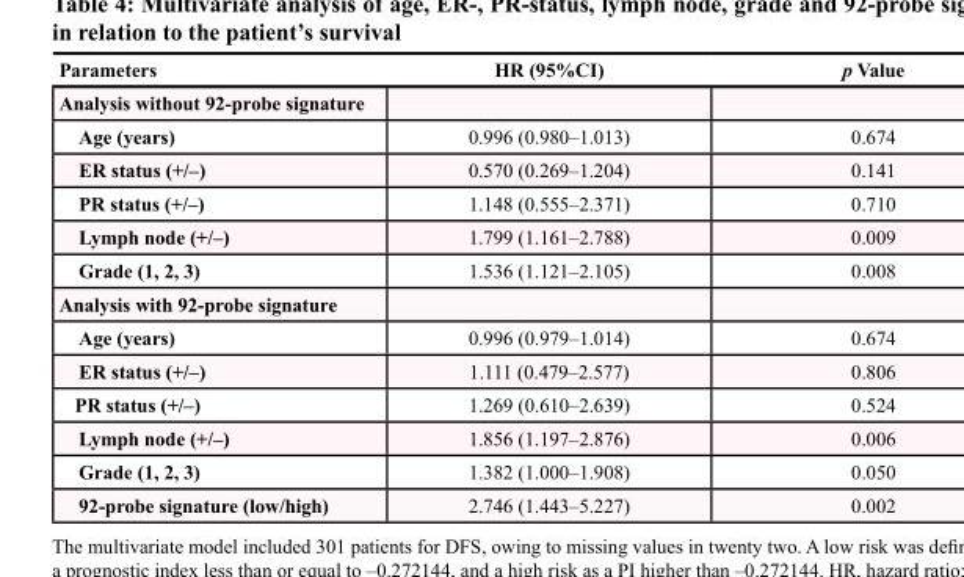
<table><thead><tr><td>Parameters</td><td>HR (95%CI)</td><td>p Value</td></tr></thead><tbody><tr><td colspan="3">Analysis without 92-probe signature</td></tr><tr><td>Age (years)</td><td>0.996 (0.980–1.013)</td><td>0.674</td></tr><tr><td>ER status (+/–)</td><td>0.570 (0.269–1.204)</td><td>0.141</td></tr><tr><td>PR status (+/–)</td><td>1.148 (0.555–2.371)</td><td>0.710</td></tr><tr><td>Lymph node (+/–)</td><td>1.799 (1.161–2.788)</td><td>0.009</td></tr><tr><td>Grade (1, 2, 3)</td><td>1.536 (1.121–2.105)</td><td>0.008</td></tr><tr><td colspan="3">Analysis with 92-probe signature</td></tr><tr><td>Age (years)</td><td>0.996 (0.979–1.014)</td><td>0.674</td></tr><tr><td>ER status (+/–)</td><td>1.111 (0.479–2.577)</td><td>0.806</td></tr><tr><td>PR status (+/–)</td><td>1.269 (0.610–2.639)</td><td>0.524</td></tr><tr><td>Lymph node (+/–)</td><td>1.856 (1.197–2.876)</td><td>0.006</td></tr><tr><td>Grade (1, 2, 3)</td><td>1.382 (1.000–1.908)</td><td>0.050</td></tr><tr><td>92-probe signature (low/high)</td><td>2.746 (1.443–5.227)</td><td>0.002</td></tr></tbody></table>